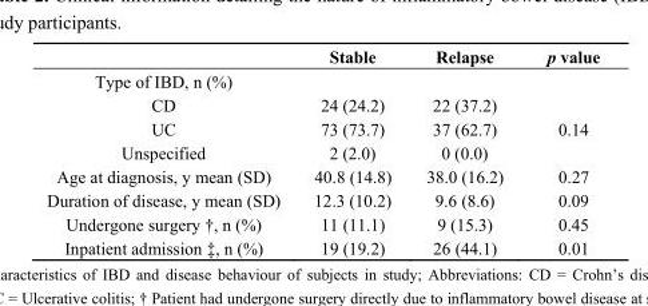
<table><thead><tr><td></td><td>Stable</td><td>Relapse</td><td>p value</td></tr></thead><tbody><tr><td colspan="4">Type of IBD, n (%)</td></tr><tr><td>CD</td><td>24 (24.2)</td><td>22 (37.2)</td><td></td></tr><tr><td>UC</td><td>73 (73.7)</td><td>37 (62.7)</td><td>0.14</td></tr><tr><td>Unspecified</td><td>2 (2.0)</td><td>0 (0.0)</td><td></td></tr><tr><td>Age at diagnosis, y mean (SD)</td><td>40.8 (14.8)</td><td>38.0 (16.2)</td><td>0.27</td></tr><tr><td>Duration of disease, y mean (SD)</td><td>12.3 (10.2)</td><td>9.6 (8.6)</td><td>0.09</td></tr><tr><td>Undergone surgery †, n (%)</td><td>11 (11.1)</td><td>9 (15.3)</td><td>0.45</td></tr><tr><td>Inpatient admission ‡, n (%)</td><td>19 (19.2)</td><td>26 (44.1)</td><td>0.01</td></tr></tbody></table>